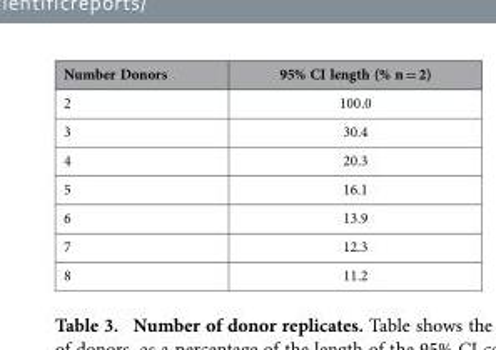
<table><thead><tr><td>Number Donors</td><td>95% CI length (% n = 2)</td></tr></thead><tbody><tr><td>2</td><td>100.0</td></tr><tr><td>3</td><td>30.4</td></tr><tr><td>4</td><td>20.3</td></tr><tr><td>5</td><td>16.1</td></tr><tr><td>6</td><td>13.9</td></tr><tr><td>7</td><td>12.3</td></tr><tr><td>8</td><td>11.2</td></tr></tbody></table>